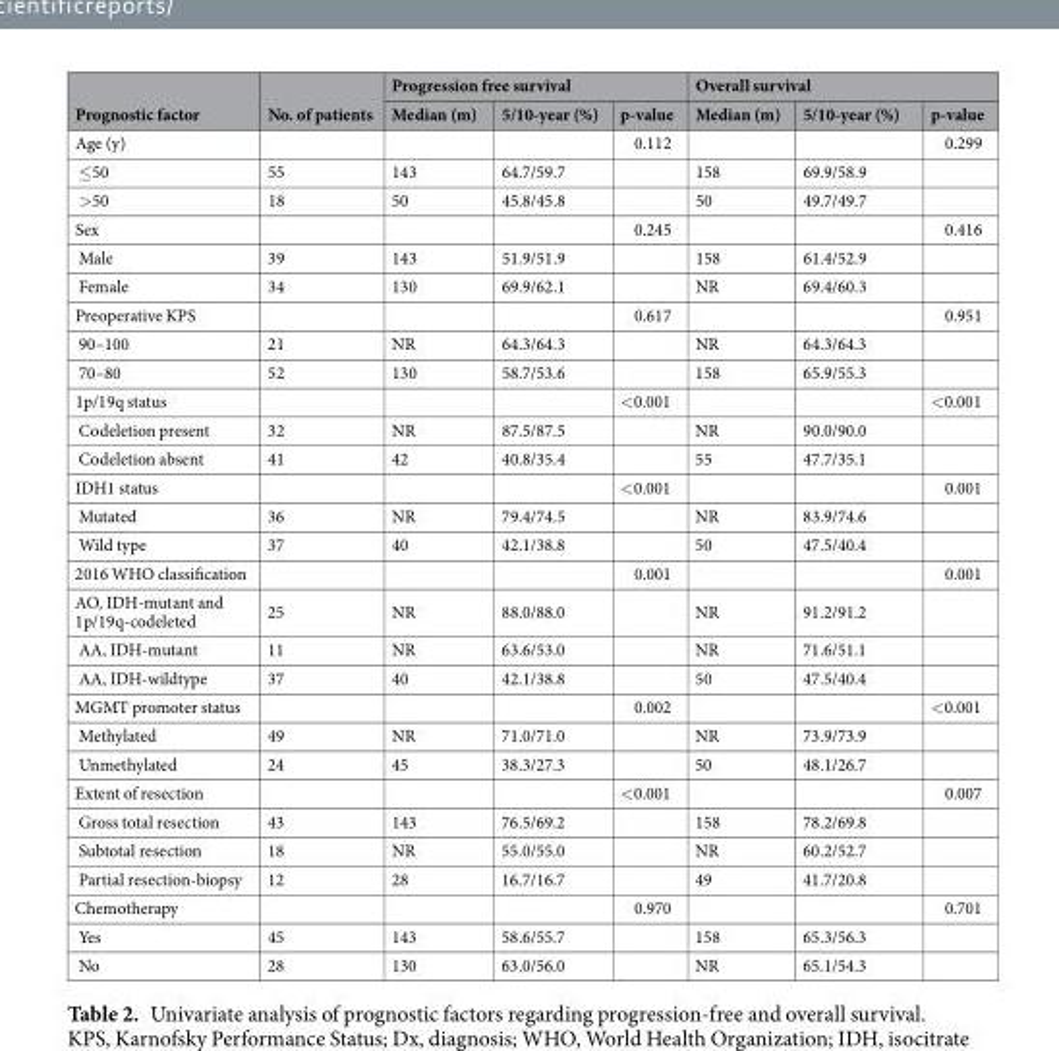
<table><thead><tr><td rowspan="2">Prognostic factor</td><td rowspan="2">No. of patients</td><td colspan="3">Progression free survival</td><td colspan="3">Overall survival</td></tr><tr><td>Median (m)</td><td>5/10-year (%)</td><td>p-value</td><td>Median (m)</td><td>5/10-year (%)</td><td>p-value</td></tr></thead><tbody><tr><td>Age (y)</td><td></td><td></td><td></td><td>0.112</td><td></td><td></td><td>0.299</td></tr><tr><td>≤50</td><td>55</td><td>143</td><td>64.7/59.7</td><td></td><td>158</td><td>69.9/58.9</td><td></td></tr><tr><td>&gt;50</td><td>18</td><td>50</td><td>45.8/45.8</td><td></td><td>50</td><td>49.7/49.7</td><td></td></tr><tr><td>Sex</td><td></td><td></td><td></td><td>0.245</td><td></td><td></td><td>0.416</td></tr><tr><td>Male</td><td>39</td><td>143</td><td>51.9/51.9</td><td></td><td>158</td><td>61.4/52.9</td><td></td></tr><tr><td>Female</td><td>34</td><td>130</td><td>69.9/62.1</td><td></td><td>NR</td><td>69.4/60.3</td><td></td></tr><tr><td>Preoperative KPS</td><td></td><td></td><td></td><td>0.617</td><td></td><td></td><td>0.951</td></tr><tr><td>90–100</td><td>21</td><td>NR</td><td>64.3/64.3</td><td></td><td>NR</td><td>64.3/64.3</td><td></td></tr><tr><td>70–80</td><td>52</td><td>130</td><td>58.7/53.6</td><td></td><td>158</td><td>65.9/55.3</td><td></td></tr><tr><td>1p/19q status</td><td></td><td></td><td></td><td>&lt;0.001</td><td></td><td></td><td>&lt;0.001</td></tr><tr><td>Codeletion present</td><td>32</td><td>NR</td><td>87.5/87.5</td><td></td><td>NR</td><td>90.0/90.0</td><td></td></tr><tr><td>Codeletion absent</td><td>41</td><td>42</td><td>40.8/35.4</td><td></td><td>55</td><td>47.7/35.1</td><td></td></tr><tr><td>IDH1 status</td><td></td><td></td><td></td><td>&lt;0.001</td><td></td><td></td><td>0.001</td></tr><tr><td>Mutated</td><td>36</td><td>NR</td><td>79.4/74.5</td><td></td><td>NR</td><td>83.9/74.6</td><td></td></tr><tr><td>Wild type</td><td>37</td><td>40</td><td>42.1/38.8</td><td></td><td>50</td><td>47.5/40.4</td><td></td></tr><tr><td>2016 WHO classification</td><td></td><td></td><td></td><td>0.001</td><td></td><td></td><td>0.001</td></tr><tr><td>AO, IDH-mutant and 1p/19q-codeleted</td><td>25</td><td>NR</td><td>88.0/88.0</td><td></td><td>NR</td><td>91.2/91.2</td><td></td></tr><tr><td>AA, IDH-mutant</td><td>11</td><td>NR</td><td>63.6/53.0</td><td></td><td>NR</td><td>71.6/51.1</td><td></td></tr><tr><td>AA, IDH-wildtype</td><td>37</td><td>40</td><td>42.1/38.8</td><td></td><td>50</td><td>47.5/40.4</td><td></td></tr><tr><td>MGMT promoter status</td><td></td><td></td><td></td><td>0.002</td><td></td><td></td><td>&lt;0.001</td></tr><tr><td>Methylated</td><td>49</td><td>NR</td><td>71.0/71.0</td><td></td><td>NR</td><td>73.9/73.9</td><td></td></tr><tr><td>Unmethylated</td><td>24</td><td>45</td><td>38.3/27.3</td><td></td><td>50</td><td>48.1/26.7</td><td></td></tr><tr><td>Extent of resection</td><td></td><td></td><td></td><td>&lt;0.001</td><td></td><td></td><td>0.007</td></tr><tr><td>Gross total resection</td><td>43</td><td>143</td><td>76.5/69.2</td><td></td><td>158</td><td>78.2/69.8</td><td></td></tr><tr><td>Subtotal resection</td><td>18</td><td>NR</td><td>55.0/55.0</td><td></td><td>NR</td><td>60.2/52.7</td><td></td></tr><tr><td>Partial resection-biopsy</td><td>12</td><td>28</td><td>16.7/16.7</td><td></td><td>49</td><td>41.7/20.8</td><td></td></tr><tr><td>Chemotherapy</td><td></td><td></td><td></td><td>0.970</td><td></td><td></td><td>0.701</td></tr><tr><td>Yes</td><td>45</td><td>143</td><td>58.6/55.7</td><td></td><td>158</td><td>65.3/56.3</td><td></td></tr><tr><td>No</td><td>28</td><td>130</td><td>63.0/56.0</td><td></td><td>NR</td><td>65.1/54.3</td><td></td></tr></tbody></table>